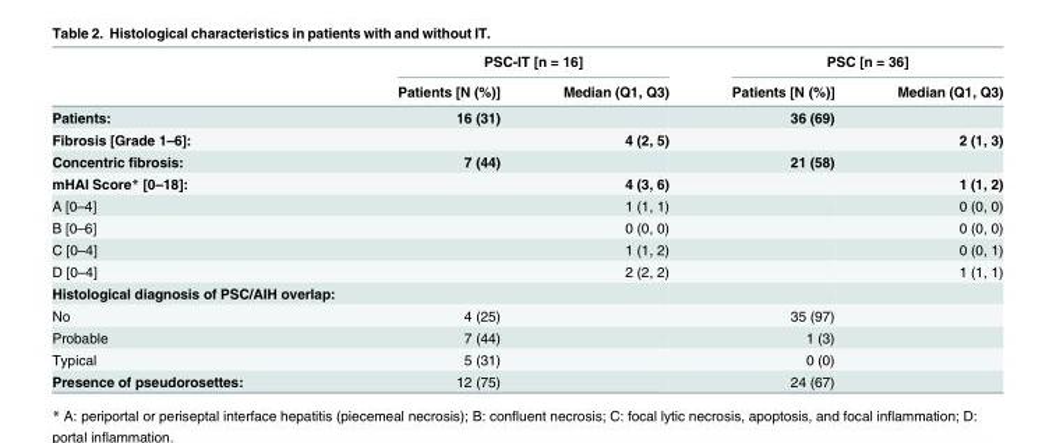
<table><thead><tr><td rowspan="2"></td><td colspan="2">PSC-IT [n = 16]</td><td colspan="2">PSC [n = 36]</td></tr><tr><td>Patients [N (%)]</td><td>Median (Q1, Q3)</td><td>Patients [N (%)]</td><td>Median (Q1, Q3)</td></tr></thead><tbody><tr><td>Patients:</td><td>16 (31)</td><td></td><td>36 (69)</td><td></td></tr><tr><td>Fibrosis [Grade 1–6]:</td><td></td><td>4 (2, 5)</td><td></td><td>2 (1, 3)</td></tr><tr><td>Concentric fibrosis:</td><td>7 (44)</td><td></td><td>21 (58)</td><td></td></tr><tr><td>mHAI Score* [0–18]:</td><td></td><td>4 (3, 6)</td><td></td><td>1 (1, 2)</td></tr><tr><td>A [0–4]</td><td></td><td>1 (1, 1)</td><td></td><td>0 (0, 0)</td></tr><tr><td>B [0–6]</td><td></td><td>0 (0, 0)</td><td></td><td>0 (0, 0)</td></tr><tr><td>C [0–4]</td><td></td><td>1 (1, 2)</td><td></td><td>0 (0, 1)</td></tr><tr><td>D [0–4]</td><td></td><td>2 (2, 2)</td><td></td><td>1 (1, 1)</td></tr><tr><td colspan="5">Histological diagnosis of PSC/AIH overlap:</td></tr><tr><td>No</td><td>4 (25)</td><td></td><td>35 (97)</td><td></td></tr><tr><td>Probable</td><td>7 (44)</td><td></td><td>1 (3)</td><td></td></tr><tr><td>Typical</td><td>5 (31)</td><td></td><td>0 (0)</td><td></td></tr><tr><td>Presence of pseudorosettes:</td><td>12 (75)</td><td></td><td>24 (67)</td><td></td></tr></tbody></table>